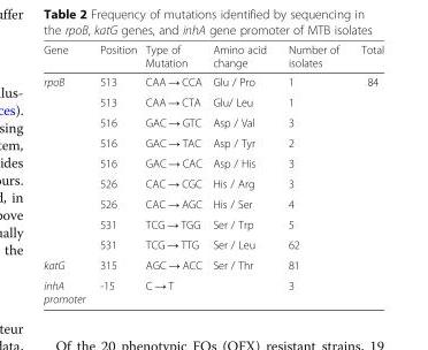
<table><thead><tr><td>Gene</td><td>Position</td><td>Type of Mutation</td><td>Amino acid change</td><td>Number of isolates</td><td>Total</td></tr></thead><tbody><tr><td rowspan="9">rpoB</td><td>513</td><td>CAA → CCA</td><td>Glu / Pro</td><td>1</td><td rowspan="11">84</td></tr><tr><td>513</td><td>CAA → CTA</td><td>Glu/ Leu</td><td>1</td></tr><tr><td>516</td><td>GAC → GTC</td><td>Asp / Val</td><td>3</td></tr><tr><td>516</td><td>GAC → TAC</td><td>Asp / Tyr</td><td>2</td></tr><tr><td>516</td><td>GAC → CAC</td><td>Asp / His</td><td>3</td></tr><tr><td>526</td><td>CAC → CGC</td><td>His / Arg</td><td>3</td></tr><tr><td>526</td><td>CAC → AGC</td><td>His / Ser</td><td>4</td></tr><tr><td>531</td><td>TCG → TGG</td><td>Ser / Trp</td><td>5</td></tr><tr><td>531</td><td>TCG → TTG</td><td>Ser / Leu</td><td>62</td></tr><tr><td>katG</td><td>315</td><td>AGC → ACC</td><td>Ser / Thr</td><td>81</td></tr><tr><td>inhA promoter</td><td>-15</td><td>C → T</td><td></td><td>3</td></tr></tbody></table>